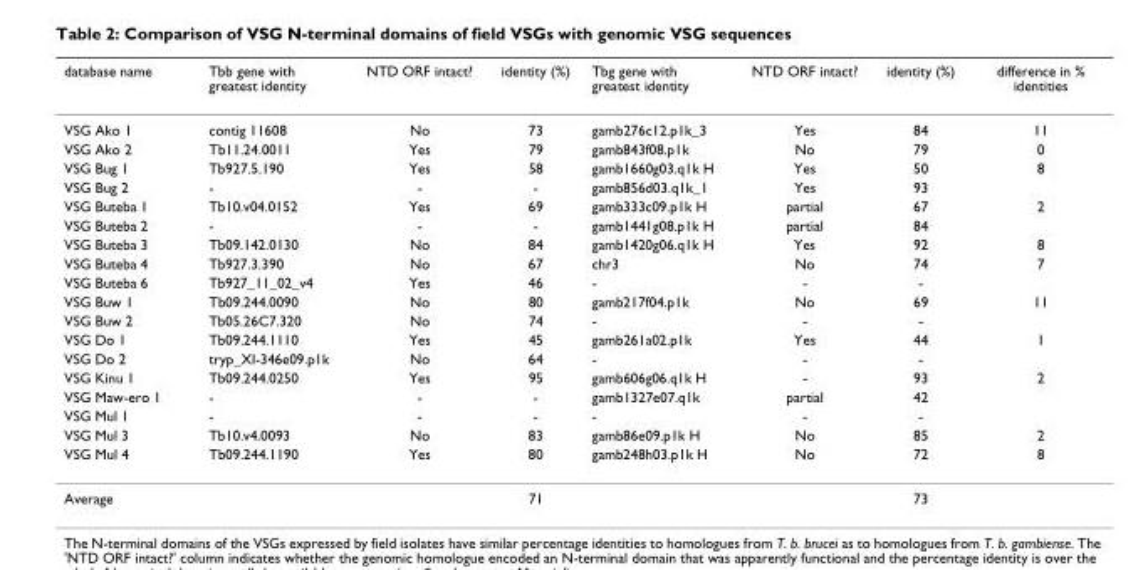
<table><thead><tr><td>database name</td><td>Tbb gene with greatest identity</td><td>NTD ORF intact?</td><td>identity (%)</td><td>Tbg gene with greatest identity</td><td>NTD ORF intact?</td><td>identity (%)</td><td>difference in % identities</td></tr></thead><tbody><tr><td>VSG Ako 1</td><td>contig 11608</td><td>No</td><td>73</td><td>gamb276c12.p1k_3</td><td>Yes</td><td>84</td><td>11</td></tr><tr><td>VSG Ako 2</td><td>Tb11.24.0011</td><td>Yes</td><td>79</td><td>gamb843f08.p1k</td><td>No</td><td>79</td><td>0</td></tr><tr><td>VSG Bug 1</td><td>Tb927.5.190</td><td>Yes</td><td>58</td><td>gamb1660g03.q1k H</td><td>Yes</td><td>50</td><td>8</td></tr><tr><td>VSG Bug 2</td><td>-</td><td>-</td><td>-</td><td>gamb856d03.q1k_1</td><td>Yes</td><td>93</td><td></td></tr><tr><td>VSG Buteba 1</td><td>Tb10.v04.0152</td><td>Yes</td><td>69</td><td>gamb333c09.p1k H</td><td>partial</td><td>67</td><td>2</td></tr><tr><td>VSG Buteba 2</td><td>-</td><td>-</td><td>-</td><td>gamb1441g08.p1k H</td><td>partial</td><td>84</td><td></td></tr><tr><td>VSG Buteba 3</td><td>Tb09.142.0130</td><td>No</td><td>84</td><td>gamb1420g06.q1k H</td><td>Yes</td><td>92</td><td>8</td></tr><tr><td>VSG Buteba 4</td><td>Tb927.3.390</td><td>No</td><td>67</td><td>chr3</td><td>No</td><td>74</td><td>7</td></tr><tr><td>VSG Buteba 6</td><td>Tb927_11_02_v4</td><td>Yes</td><td>46</td><td>-</td><td>-</td><td>-</td><td></td></tr><tr><td>VSG Buw 1</td><td>Tb09.244.0090</td><td>No</td><td>80</td><td>gamb217f04.p1k</td><td>No</td><td>69</td><td>11</td></tr><tr><td>VSG Buw 2</td><td>Tb05.26C7.320</td><td>No</td><td>74</td><td>-</td><td>-</td><td>-</td><td></td></tr><tr><td>VSG Do 1</td><td>Tb09.244.1110</td><td>Yes</td><td>45</td><td>gamb261a02.p1k</td><td>Yes</td><td>44</td><td>1</td></tr><tr><td>VSG Do 2</td><td>tryp_XI-346e09.p1k</td><td>No</td><td>64</td><td>-</td><td>-</td><td>-</td><td></td></tr><tr><td>VSG Kinu 1</td><td>Tb09.244.0250</td><td>Yes</td><td>95</td><td>gamb606g06.q1k H</td><td>-</td><td>93</td><td>2</td></tr><tr><td>VSG Maw-ero 1</td><td>-</td><td>-</td><td>-</td><td>gamb1327e07.q1k</td><td>partial</td><td>42</td><td></td></tr><tr><td>VSG Mul 1</td><td>-</td><td>-</td><td>-</td><td>-</td><td>-</td><td>-</td><td></td></tr><tr><td>VSG Mul 3</td><td>Tb10.v4.0093</td><td>No</td><td>83</td><td>gamb86e09.p1k H</td><td>No</td><td>85</td><td>2</td></tr><tr><td>VSG Mul 4</td><td>Tb09.244.1190</td><td>Yes</td><td>80</td><td>gamb248h03.p1k H</td><td>No</td><td>72</td><td>8</td></tr><tr><td>Average</td><td></td><td></td><td>71</td><td></td><td></td><td>73</td><td></td></tr></tbody></table>